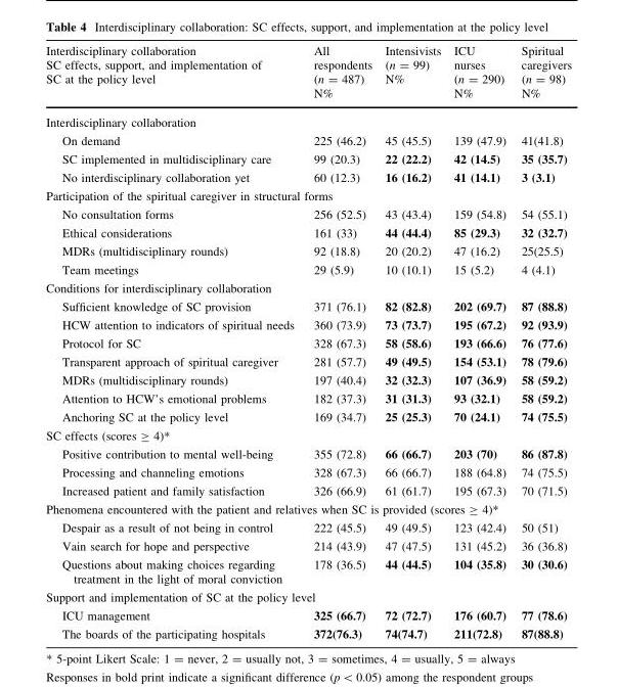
<table><thead><tr><td>Interdisciplinary collaboration SC effects, support, and implementation of SC at the policy level</td><td>All respondents (n = 487) N%</td><td>Intensivists (n = 99) N%</td><td>ICU nurses (n = 290) N%</td><td>Spiritual caregivers (n = 98) N%</td></tr></thead><tbody><tr><td colspan="5">Interdisciplinary collaboration</td></tr><tr><td>On demand</td><td>225 (46.2)</td><td>45 (45.5)</td><td>139 (47.9)</td><td>41(41.8)</td></tr><tr><td>SC implemented in multidisciplinary care</td><td>99 (20.3)</td><td>22 (22.2)</td><td>42 (14.5)</td><td>35 (35.7)</td></tr><tr><td>No interdisciplinary collaboration yet</td><td>60 (12.3)</td><td>16 (16.2)</td><td>41 (14.1)</td><td>3 (3.1)</td></tr><tr><td colspan="5">Participation of the spiritual caregiver in structural forms</td></tr><tr><td>No consultation forms</td><td>256 (52.5)</td><td>43 (43.4)</td><td>159 (54.8)</td><td>54 (55.1)</td></tr><tr><td>Ethical considerations</td><td>161 (33)</td><td>44 (44.4)</td><td>85 (29.3)</td><td>32 (32.7)</td></tr><tr><td>MDRs (multidisciplinary rounds)</td><td>92 (18.8)</td><td>20 (20.2)</td><td>47 (16.2)</td><td>25(25.5)</td></tr><tr><td>Team meetings</td><td>29 (5.9)</td><td>10 (10.1)</td><td>15 (5.2)</td><td>4 (4.1)</td></tr><tr><td colspan="5">Conditions for interdisciplinary collaboration</td></tr><tr><td>Sufficient knowledge of SC provision</td><td>371 (76.1)</td><td>82 (82.8)</td><td>202 (69.7)</td><td>87 (88.8)</td></tr><tr><td>HCW attention to indicators of spiritual needs</td><td>360 (73.9)</td><td>73 (73.7)</td><td>195 (67.2)</td><td>92 (93.9)</td></tr><tr><td>Protocol for SC</td><td>328 (67.3)</td><td>58 (58.6)</td><td>193 (66.6)</td><td>76 (77.6)</td></tr><tr><td>Transparent approach of spiritual caregiver</td><td>281 (57.7)</td><td>49 (49.5)</td><td>154 (53.1)</td><td>78 (79.6)</td></tr><tr><td>MDRs (multidisciplinary rounds)</td><td>197 (40.4)</td><td>32 (32.3)</td><td>107 (36.9)</td><td>58 (59.2)</td></tr><tr><td>Attention to HCW’s emotional problems</td><td>182 (37.3)</td><td>31 (31.3)</td><td>93 (32.1)</td><td>58 (59.2)</td></tr><tr><td>Anchoring SC at the policy level</td><td>169 (34.7)</td><td>25 (25.3)</td><td>70 (24.1)</td><td>74 (75.5)</td></tr><tr><td colspan="5">SC effects (scores ≥ 4)*</td></tr><tr><td>Positive contribution to mental well-being</td><td>355 (72.8)</td><td>66 (66.7)</td><td>203 (70)</td><td>86 (87.8)</td></tr><tr><td>Processing and channeling emotions</td><td>328 (67.3)</td><td>66 (66.7)</td><td>188 (64.8)</td><td>74 (75.5)</td></tr><tr><td>Increased patient and family satisfaction</td><td>326 (66.9)</td><td>61 (61.7)</td><td>195 (67.3)</td><td>70 (71.5)</td></tr><tr><td colspan="5">Phenomena encountered with the patient and relatives when SC is provided (scores ≥ 4)*</td></tr><tr><td>Despair as a result of not being in control</td><td>222 (45.5)</td><td>49 (49.5)</td><td>123 (42.4)</td><td>50 (51)</td></tr><tr><td>Vain search for hope and perspective</td><td>214 (43.9)</td><td>47 (47.5)</td><td>131 (45.2)</td><td>36 (36.8)</td></tr><tr><td>Questions about making choices regarding treatment in the light of moral conviction</td><td>178 (36.5)</td><td>44 (44.5)</td><td>104 (35.8)</td><td>30 (30.6)</td></tr><tr><td colspan="5">Support and implementation of SC at the policy level</td></tr><tr><td>ICU management</td><td>325 (66.7)</td><td>72 (72.7)</td><td>176 (60.7)</td><td>77 (78.6)</td></tr><tr><td>The boards of the participating hospitals</td><td>372(76.3)</td><td>74(74.7)</td><td>211(72.8)</td><td>87(88.8)</td></tr></tbody></table>